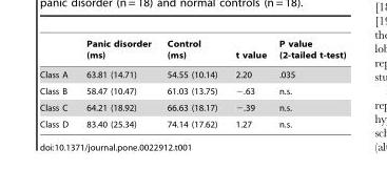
<table><thead><tr><td></td><td>Panic disorder (ms)</td><td>Control (ms)</td><td>t value</td><td>P value (2-tailed t-test)</td></tr></thead><tbody><tr><td>Class A</td><td>63.81 (14.71)</td><td>54.55 (10.14)</td><td>2.20</td><td>.035</td></tr><tr><td>Class B</td><td>58.47 (10.47)</td><td>61.03 (13.75)</td><td>−.63</td><td>n.s.</td></tr><tr><td>Class C</td><td>64.21 (18.92)</td><td>66.63 (18.17)</td><td>−.39</td><td>n.s.</td></tr><tr><td>Class D</td><td>83.40 (25.34)</td><td>74.14 (17.62)</td><td>1.27</td><td>n.s.</td></tr></tbody></table>